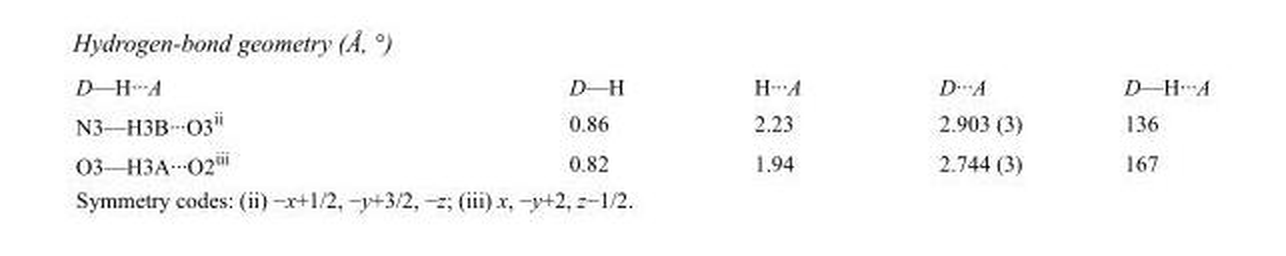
<table><tbody><tr><td>D—H···A</td><td>D—H</td><td>H···A</td><td>D···A</td><td>D—H···A</td></tr><tr><td>N3—H3B···O3<sup>ii</sup></td><td>0.86</td><td>2.23</td><td>2.903 (3)</td><td>136</td></tr><tr><td>O3—H3A···O2<sup>iii</sup></td><td>0.82</td><td>1.94</td><td>2.744 (3)</td><td>167</td></tr></tbody></table>